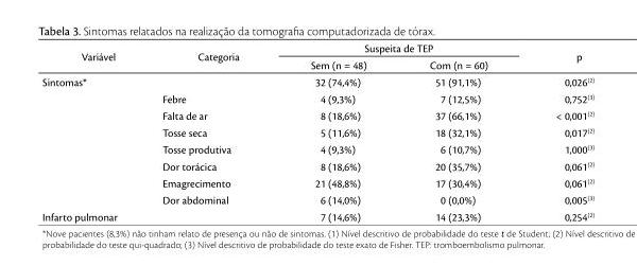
<table><thead><tr><td rowspan="2">Variável</td><td rowspan="2">Categoria</td><td colspan="2">Suspeita de TEP</td><td rowspan="2">p</td></tr><tr><td>Sem (n = 48)</td><td>Com (n = 60)</td></tr></thead><tbody><tr><td rowspan="8">Sintomas*</td><td></td><td>32 (74,4%)</td><td>51 (91,1%)</td><td>0,026(2)</td></tr><tr><td>Febre</td><td>4 (9,3%)</td><td>7 (12,5%)</td><td>0,752(3)</td></tr><tr><td>Falta de ar</td><td>8 (18,6%)</td><td>37 (66,1%)</td><td>&lt; 0,001(2)</td></tr><tr><td>Tosse seca</td><td>5 (11,6%)</td><td>18 (32,1%)</td><td>0,017(2)</td></tr><tr><td>Tosse produtiva</td><td>4 (9,3%)</td><td>6 (10,7%)</td><td>1,000(3)</td></tr><tr><td>Dor torácica</td><td>8 (18,6%)</td><td>20 (35,7%)</td><td>0,061(2)</td></tr><tr><td>Emagrecimento</td><td>21 (48,8%)</td><td>17 (30,4%)</td><td>0,061(2)</td></tr><tr><td>Dor abdominal</td><td>6 (14,0%)</td><td>0 (0,0%)</td><td>0,005(3)</td></tr><tr><td>Infarto pulmonar</td><td></td><td>7 (14,6%)</td><td>14 (23,3%)</td><td>0,254(2)</td></tr></tbody></table>